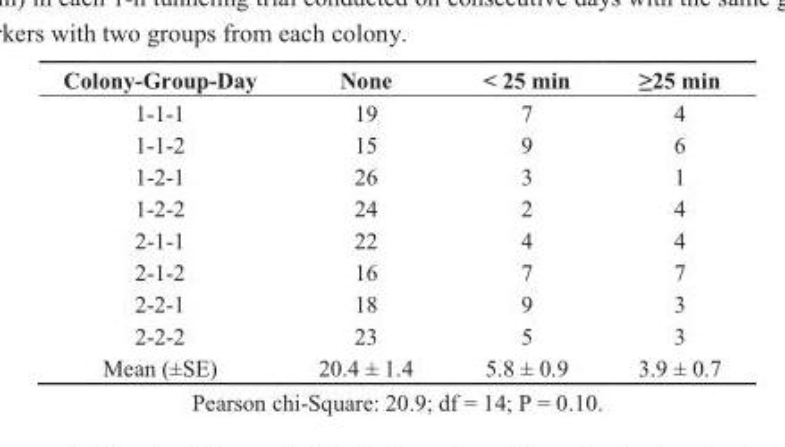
<table><thead><tr><td>Colony-Group-Day</td><td>None</td><td>&lt; 25 min</td><td>≥25 min</td></tr></thead><tbody><tr><td>1-1-1</td><td>19</td><td>7</td><td>4</td></tr><tr><td>1-1-2</td><td>15</td><td>9</td><td>6</td></tr><tr><td>1-2-1</td><td>26</td><td>3</td><td>1</td></tr><tr><td>1-2-2</td><td>24</td><td>2</td><td>4</td></tr><tr><td>2-1-1</td><td>22</td><td>4</td><td>4</td></tr><tr><td>2-1-2</td><td>16</td><td>7</td><td>7</td></tr><tr><td>2-2-1</td><td>18</td><td>9</td><td>3</td></tr><tr><td>2-2-2</td><td>23</td><td>5</td><td>3</td></tr><tr><td>Mean (±SE)</td><td>20.4 ± 1.4</td><td>5.8 ± 0.9</td><td>3.9 ± 0.7</td></tr></tbody></table>